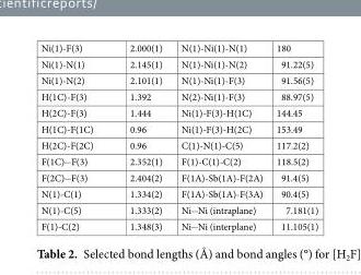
<table><thead><tr><td>Ni(1)-F(3)</td><td>2.000(1)</td><td>N(1)-Ni(1)-N(1)</td><td>180</td></tr></thead><tbody><tr><td>Ni(1)-N(1)</td><td>2.145(1)</td><td>N(1)-Ni(1)-N(2)</td><td>91.22(5)</td></tr><tr><td>Ni(1)-N(2)</td><td>2.101(1)</td><td>N(1)-Ni(1)-F(3)</td><td>91.56(5)</td></tr><tr><td>H(1C)-F(3)</td><td>1.392</td><td>N(2)-Ni(1)-F(3)</td><td>88.97(5)</td></tr><tr><td>H(2C)-F(3)</td><td>1.444</td><td>Ni(1)-F(3)-H(1C)</td><td>144.45</td></tr><tr><td>H(1C)-F(1C)</td><td>0.96</td><td>Ni(1)-F(3)-H(2C)</td><td>153.49</td></tr><tr><td>H(2C)-F(2C)</td><td>0.96</td><td>C(1)-N(1)-C(5)</td><td>117.2(2)</td></tr><tr><td>F(1C)···F(3)</td><td>2.352(1)</td><td>F(1)-C(1)-C(2)</td><td>118.5(2)</td></tr><tr><td>F(2C)···F(3)</td><td>2.404(2)</td><td>F(1A)-Sb(1A)-F(2A)</td><td>91.4(5)</td></tr><tr><td>N(1)-C(1)</td><td>1.334(2)</td><td>F(1A)-Sb(1A)-F(3A)</td><td>90.4(5)</td></tr><tr><td>N(1)-C(5)</td><td>1.333(2)</td><td>Ni···Ni (intraplane)</td><td>7.181(1)</td></tr><tr><td>F(1)-C(2)</td><td>1.348(3)</td><td>Ni···Ni (interplane)</td><td>11.105(1)</td></tr></tbody></table>